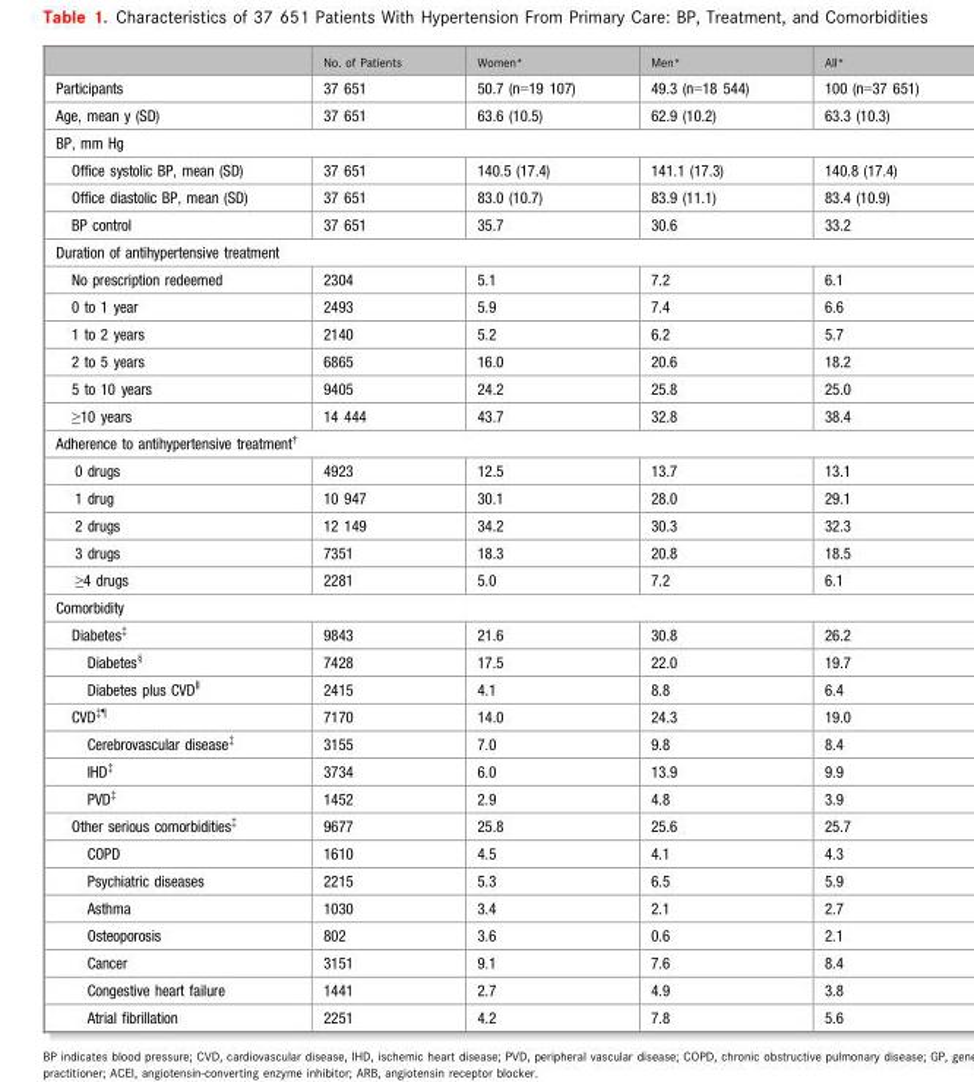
<table><thead><tr><td></td><td>No. of Patients</td><td>Women*</td><td>Men*</td><td>All*</td></tr></thead><tbody><tr><td>Participants</td><td>37 651</td><td>50.7 (n=19 107)</td><td>49.3 (n=18 544)</td><td>100 (n=37 651)</td></tr><tr><td>Age, mean y (SD)</td><td>37 651</td><td>63.6 (10.5)</td><td>62.9 (10.2)</td><td>63.3 (10.3)</td></tr><tr><td colspan="5">BP, mm Hg</td></tr><tr><td>Office systolic BP, mean (SD)</td><td>37 651</td><td>140.5 (17.4)</td><td>141.1 (17.3)</td><td>140.8 (17.4)</td></tr><tr><td>Office diastolic BP, mean (SD)</td><td>37 651</td><td>83.0 (10.7)</td><td>83.9 (11.1)</td><td>83.4 (10.9)</td></tr><tr><td>BP control</td><td>37 651</td><td>35.7</td><td>30.6</td><td>33.2</td></tr><tr><td colspan="5">Duration of antihypertensive treatment</td></tr><tr><td>No prescription redeemed</td><td>2304</td><td>5.1</td><td>7.2</td><td>6.1</td></tr><tr><td>0 to 1 year</td><td>2493</td><td>5.9</td><td>7.4</td><td>6.6</td></tr><tr><td>1 to 2 years</td><td>2140</td><td>5.2</td><td>6.2</td><td>5.7</td></tr><tr><td>2 to 5 years</td><td>6865</td><td>16.0</td><td>20.6</td><td>18.2</td></tr><tr><td>5 to 10 years</td><td>9405</td><td>24.2</td><td>25.8</td><td>25.0</td></tr><tr><td>≥10 years</td><td>14 444</td><td>43.7</td><td>32.8</td><td>38.4</td></tr><tr><td colspan="5">Adherence to antihypertensive treatment†</td></tr><tr><td>0 drugs</td><td>4923</td><td>12.5</td><td>13.7</td><td>13.1</td></tr><tr><td>1 drug</td><td>10 947</td><td>30.1</td><td>28.0</td><td>29.1</td></tr><tr><td>2 drugs</td><td>12 149</td><td>34.2</td><td>30.3</td><td>32.3</td></tr><tr><td>3 drugs</td><td>7351</td><td>18.3</td><td>20.8</td><td>18.5</td></tr><tr><td>≥4 drugs</td><td>2281</td><td>5.0</td><td>7.2</td><td>6.1</td></tr><tr><td colspan="5">Comorbidity</td></tr><tr><td>Diabetes‡</td><td>9843</td><td>21.6</td><td>30.8</td><td>26.2</td></tr><tr><td>Diabetes§</td><td>7428</td><td>17.5</td><td>22.0</td><td>19.7</td></tr><tr><td>Diabetes plus CVD‖</td><td>2415</td><td>4.1</td><td>8.8</td><td>6.4</td></tr><tr><td>CVD‡¶</td><td>7170</td><td>14.0</td><td>24.3</td><td>19.0</td></tr><tr><td>Cerebrovascular disease‡</td><td>3155</td><td>7.0</td><td>9.8</td><td>8.4</td></tr><tr><td>IHD‡</td><td>3734</td><td>6.0</td><td>13.9</td><td>9.9</td></tr><tr><td>PVD‡</td><td>1452</td><td>2.9</td><td>4.8</td><td>3.9</td></tr><tr><td>Other serious comorbidities‡</td><td>9677</td><td>25.8</td><td>25.6</td><td>25.7</td></tr><tr><td>COPD</td><td>1610</td><td>4.5</td><td>4.1</td><td>4.3</td></tr><tr><td>Psychiatric diseases</td><td>2215</td><td>5.3</td><td>6.5</td><td>5.9</td></tr><tr><td>Asthma</td><td>1030</td><td>3.4</td><td>2.1</td><td>2.7</td></tr><tr><td>Osteoporosis</td><td>802</td><td>3.6</td><td>0.6</td><td>2.1</td></tr><tr><td>Cancer</td><td>3151</td><td>9.1</td><td>7.6</td><td>8.4</td></tr><tr><td>Congestive heart failure</td><td>1441</td><td>2.7</td><td>4.9</td><td>3.8</td></tr><tr><td>Atrial fibrillation</td><td>2251</td><td>4.2</td><td>7.8</td><td>5.6</td></tr></tbody></table>